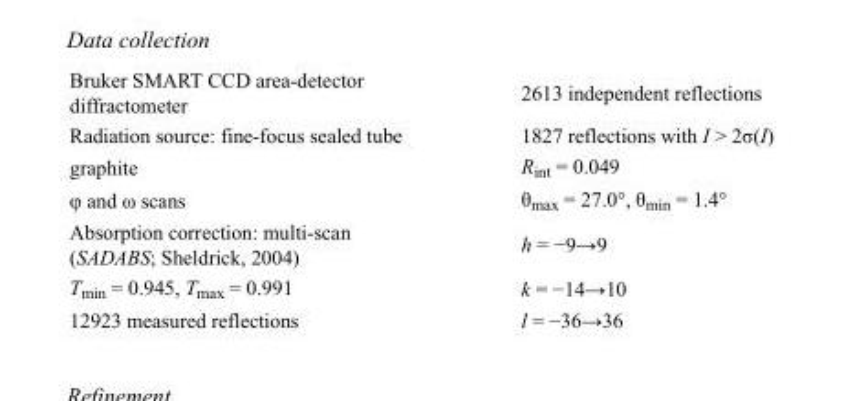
<table><tbody><tr><td>Bruker SMART CCD area-detector diffractometer</td><td>2613 independent reflections</td></tr><tr><td>Radiation source: fine-focus sealed tube</td><td>1827 reflections with I &gt; 2σ(I)</td></tr><tr><td>graphite</td><td>R<sub>int</sub> = 0.049</td></tr><tr><td>φ and ω scans</td><td>θ<sub>max</sub> = 27.0°, θ<sub>min</sub> = 1.4°</td></tr><tr><td>Absorption correction: multi-scan (SADABS; Sheldrick, 2004)</td><td>h = −9→9</td></tr><tr><td>T<sub>min</sub> = 0.945, T<sub>max</sub> = 0.991</td><td>k = −14→10</td></tr><tr><td>12923 measured reflections</td><td>l = −36→36</td></tr></tbody></table>